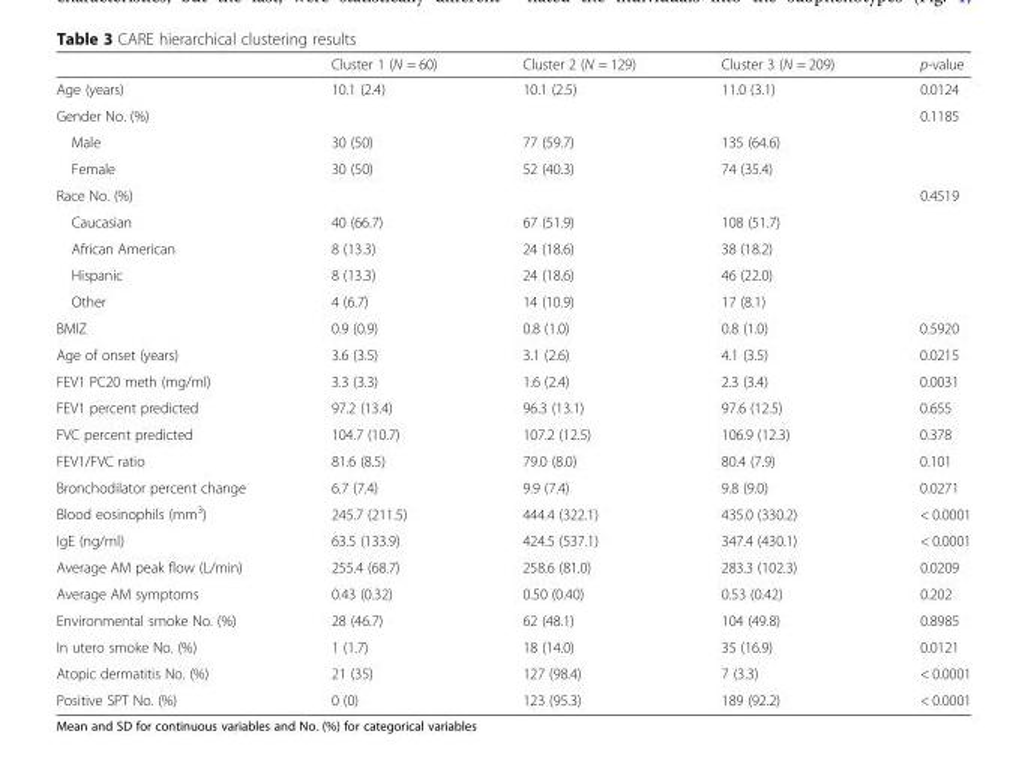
<table><thead><tr><td></td><td>Cluster 1 (N = 60)</td><td>Cluster 2 (N = 129)</td><td>Cluster 3 (N = 209)</td><td>p-value</td></tr></thead><tbody><tr><td>Age (years)</td><td>10.1 (2.4)</td><td>10.1 (2.5)</td><td>11.0 (3.1)</td><td>0.0124</td></tr><tr><td>Gender No. (%)</td><td></td><td></td><td></td><td>0.1185</td></tr><tr><td>Male</td><td>30 (50)</td><td>77 (59.7)</td><td>135 (64.6)</td><td></td></tr><tr><td>Female</td><td>30 (50)</td><td>52 (40.3)</td><td>74 (35.4)</td><td></td></tr><tr><td>Race No. (%)</td><td></td><td></td><td></td><td>0.4519</td></tr><tr><td>Caucasian</td><td>40 (66.7)</td><td>67 (51.9)</td><td>108 (51.7)</td><td></td></tr><tr><td>African American</td><td>8 (13.3)</td><td>24 (18.6)</td><td>38 (18.2)</td><td></td></tr><tr><td>Hispanic</td><td>8 (13.3)</td><td>24 (18.6)</td><td>46 (22.0)</td><td></td></tr><tr><td>Other</td><td>4 (6.7)</td><td>14 (10.9)</td><td>17 (8.1)</td><td></td></tr><tr><td>BMIZ</td><td>0.9 (0.9)</td><td>0.8 (1.0)</td><td>0.8 (1.0)</td><td>0.5920</td></tr><tr><td>Age of onset (years)</td><td>3.6 (3.5)</td><td>3.1 (2.6)</td><td>4.1 (3.5)</td><td>0.0215</td></tr><tr><td>FEV1 PC20 meth (mg/ml)</td><td>3.3 (3.3)</td><td>1.6 (2.4)</td><td>2.3 (3.4)</td><td>0.0031</td></tr><tr><td>FEV1 percent predicted</td><td>97.2 (13.4)</td><td>96.3 (13.1)</td><td>97.6 (12.5)</td><td>0.655</td></tr><tr><td>FVC percent predicted</td><td>104.7 (10.7)</td><td>107.2 (12.5)</td><td>106.9 (12.3)</td><td>0.378</td></tr><tr><td>FEV1/FVC ratio</td><td>81.6 (8.5)</td><td>79.0 (8.0)</td><td>80.4 (7.9)</td><td>0.101</td></tr><tr><td>Bronchodilator percent change</td><td>6.7 (7.4)</td><td>9.9 (7.4)</td><td>9.8 (9.0)</td><td>0.0271</td></tr><tr><td>Blood eosinophils (mm<sup>3</sup>)</td><td>245.7 (211.5)</td><td>444.4 (322.1)</td><td>435.0 (330.2)</td><td>&lt; 0.0001</td></tr><tr><td>IgE (ng/ml)</td><td>63.5 (133.9)</td><td>424.5 (537.1)</td><td>347.4 (430.1)</td><td>&lt; 0.0001</td></tr><tr><td>Average AM peak flow (L/min)</td><td>255.4 (68.7)</td><td>258.6 (81.0)</td><td>283.3 (102.3)</td><td>0.0209</td></tr><tr><td>Average AM symptoms</td><td>0.43 (0.32)</td><td>0.50 (0.40)</td><td>0.53 (0.42)</td><td>0.202</td></tr><tr><td>Environmental smoke No. (%)</td><td>28 (46.7)</td><td>62 (48.1)</td><td>104 (49.8)</td><td>0.8985</td></tr><tr><td>In utero smoke No. (%)</td><td>1 (1.7)</td><td>18 (14.0)</td><td>35 (16.9)</td><td>0.0121</td></tr><tr><td>Atopic dermatitis No. (%)</td><td>21 (35)</td><td>127 (98.4)</td><td>7 (3.3)</td><td>&lt; 0.0001</td></tr><tr><td>Positive SPT No. (%)</td><td>0 (0)</td><td>123 (95.3)</td><td>189 (92.2)</td><td>&lt; 0.0001</td></tr></tbody></table>